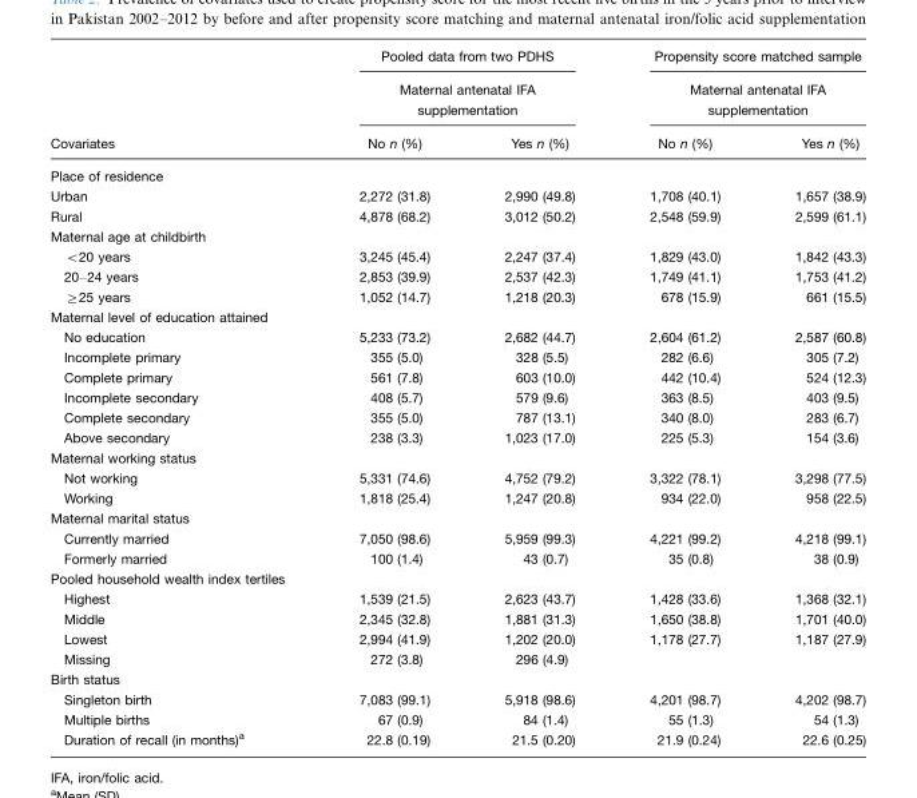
<table><thead><tr><td rowspan="3">Covariates</td><td rowspan="2" colspan="2">Pooled data from two PDHS Maternal antenatal IFA supplementation</td><td rowspan="2" colspan="2">Propensity score matched sample Maternal antenatal IFA supplementation</td></tr><tr></tr><tr><td>No n (%)</td><td>Yes n (%)</td><td>No n (%)</td><td>Yes n (%)</td></tr></thead><tbody><tr><td colspan="5">Place of residence</td></tr><tr><td>Urban</td><td>2,272 (31.8)</td><td>2,990 (49.8)</td><td>1,708 (40.1)</td><td>1,657 (38.9)</td></tr><tr><td>Rural</td><td>4,878 (68.2)</td><td>3,012 (50.2)</td><td>2,548 (59.9)</td><td>2,599 (61.1)</td></tr><tr><td colspan="5">Maternal age at childbirth</td></tr><tr><td>&lt;20 years</td><td>3,245 (45.4)</td><td>2,247 (37.4)</td><td>1,829 (43.0)</td><td>1,842 (43.3)</td></tr><tr><td>20–24 years</td><td>2,853 (39.9)</td><td>2,537 (42.3)</td><td>1,749 (41.1)</td><td>1,753 (41.2)</td></tr><tr><td>≥25 years</td><td>1,052 (14.7)</td><td>1,218 (20.3)</td><td>678 (15.9)</td><td>661 (15.5)</td></tr><tr><td colspan="5">Maternal level of education attained</td></tr><tr><td>No education</td><td>5,233 (73.2)</td><td>2,682 (44.7)</td><td>2,604 (61.2)</td><td>2,587 (60.8)</td></tr><tr><td>Incomplete primary</td><td>355 (5.0)</td><td>328 (5.5)</td><td>282 (6.6)</td><td>305 (7.2)</td></tr><tr><td>Complete primary</td><td>561 (7.8)</td><td>603 (10.0)</td><td>442 (10.4)</td><td>524 (12.3)</td></tr><tr><td>Incomplete secondary</td><td>408 (5.7)</td><td>579 (9.6)</td><td>363 (8.5)</td><td>403 (9.5)</td></tr><tr><td>Complete secondary</td><td>355 (5.0)</td><td>787 (13.1)</td><td>340 (8.0)</td><td>283 (6.7)</td></tr><tr><td>Above secondary</td><td>238 (3.3)</td><td>1,023 (17.0)</td><td>225 (5.3)</td><td>154 (3.6)</td></tr><tr><td colspan="5">Maternal working status</td></tr><tr><td>Not working</td><td>5,331 (74.6)</td><td>4,752 (79.2)</td><td>3,322 (78.1)</td><td>3,298 (77.5)</td></tr><tr><td>Working</td><td>1,818 (25.4)</td><td>1,247 (20.8)</td><td>934 (22.0)</td><td>958 (22.5)</td></tr><tr><td colspan="5">Maternal marital status</td></tr><tr><td>Currently married</td><td>7,050 (98.6)</td><td>5,959 (99.3)</td><td>4,221 (99.2)</td><td>4,218 (99.1)</td></tr><tr><td>Formerly married</td><td>100 (1.4)</td><td>43 (0.7)</td><td>35 (0.8)</td><td>38 (0.9)</td></tr><tr><td colspan="5">Pooled household wealth index tertiles</td></tr><tr><td>Highest</td><td>1,539 (21.5)</td><td>2,623 (43.7)</td><td>1,428 (33.6)</td><td>1,368 (32.1)</td></tr><tr><td>Middle</td><td>2,345 (32.8)</td><td>1,881 (31.3)</td><td>1,650 (38.8)</td><td>1,701 (40.0)</td></tr><tr><td>Lowest</td><td>2,994 (41.9)</td><td>1,202 (20.0)</td><td>1,178 (27.7)</td><td>1,187 (27.9)</td></tr><tr><td>Missing</td><td>272 (3.8)</td><td>296 (4.9)</td><td></td><td></td></tr><tr><td colspan="5">Birth status</td></tr><tr><td>Singleton birth</td><td>7,083 (99.1)</td><td>5,918 (98.6)</td><td>4,201 (98.7)</td><td>4,202 (98.7)</td></tr><tr><td>Multiple births</td><td>67 (0.9)</td><td>84 (1.4)</td><td>55 (1.3)</td><td>54 (1.3)</td></tr><tr><td>Duration of recall (in months)<sup>a</sup></td><td>22.8 (0.19)</td><td>21.5 (0.20)</td><td>21.9 (0.24)</td><td>22.6 (0.25)</td></tr></tbody></table>